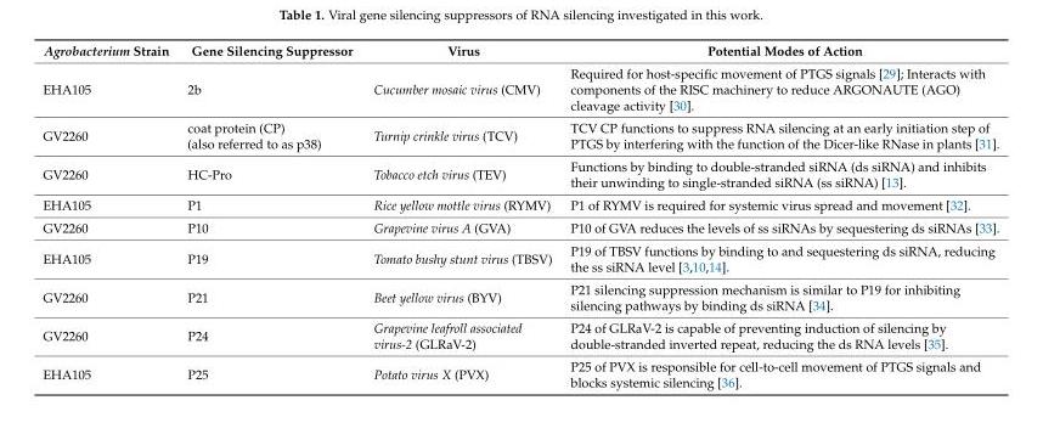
<table><thead><tr><td>Agrobacterium Strain</td><td>Gene Silencing Suppressor</td><td>Virus</td><td>Potential Modes of Action</td></tr></thead><tbody><tr><td>EHA105</td><td>2b</td><td>Cucumber mosaic virus (CMV)</td><td>Required for host-specific movement of PTGS signals [29]; Interacts with components of the RISC machinery to reduce ARGONAUTE (AGO) cleavage activity [30].</td></tr><tr><td>GV2260</td><td>coat protein (CP) (also referred to as p38)</td><td>Turnip crinkle virus (TCV)</td><td>TCV CP functions to suppress RNA silencing at an early initiation step of PTGS by interfering with the function of the Dicer-like RNase in plants [31].</td></tr><tr><td>GV2260</td><td>HC-Pro</td><td>Tobacco etch virus (TEV)</td><td>Functions by binding to double-stranded siRNA (ds siRNA) and inhibits their unwinding to single-stranded siRNA (ss siRNA) [13].</td></tr><tr><td>EHA105</td><td>P1</td><td>Rice yellow mottle virus (RYMV)</td><td>P1 of RYMV is required for systemic virus spread and movement [32].</td></tr><tr><td>GV2260</td><td>P10</td><td>Grapevine virus A (GVA)</td><td>P10 of GVA reduces the levels of ss siRNAs by sequestering ds siRNAs [33].</td></tr><tr><td>EHA105</td><td>P19</td><td>Tomato bushy stunt virus (TBSV)</td><td>P19 of TBSV functions by binding to and sequestering ds siRNA, reducing the ss siRNA level [3,10,14].</td></tr><tr><td>GV2260</td><td>P21</td><td>Beet yellow virus (BYV)</td><td>P21 silencing suppression mechanism is similar to P19 for inhibiting silencing pathways by binding ds siRNA [34].</td></tr><tr><td>GV2260</td><td>P24</td><td>Grapevine leafroll associated virus-2 (GLRaV-2)</td><td>P24 of GLRaV-2 is capable of preventing induction of silencing by double-stranded inverted repeat, reducing the ds RNA levels [35].</td></tr><tr><td>EHA105</td><td>P25</td><td>Potato virus X (PVX)</td><td>P25 of PVX is responsible for cell-to-cell movement of PTGS signals and blocks systemic silencing [36].</td></tr></tbody></table>